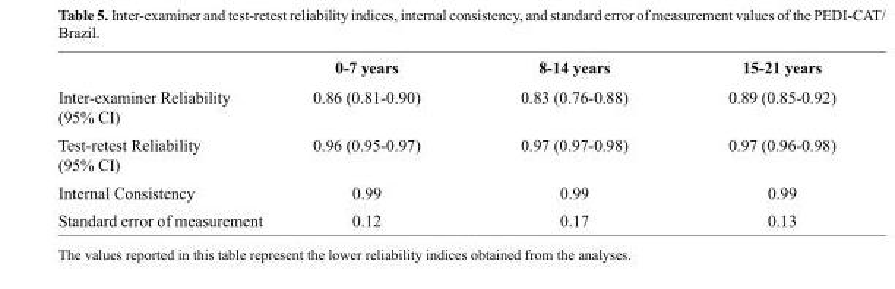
<table><thead><tr><td></td><td>0-7 years</td><td>8-14 years</td><td>15-21 years</td></tr></thead><tbody><tr><td>Inter-examiner Reliability (95% CI)</td><td>0.86 (0.81-0.90)</td><td>0.83 (0.76-0.88)</td><td>0.89 (0.85-0.92)</td></tr><tr><td>Test-retest Reliability (95% CI)</td><td>0.96 (0.95-0.97)</td><td>0.97 (0.97-0.98)</td><td>0.97 (0.96-0.98)</td></tr><tr><td>Internal Consistency</td><td>0.99</td><td>0.99</td><td>0.99</td></tr><tr><td>Standard error of measurement</td><td>0.12</td><td>0.17</td><td>0.13</td></tr></tbody></table>